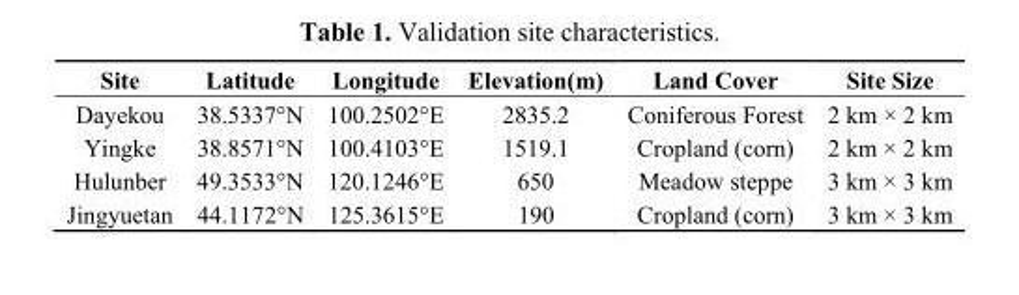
<table><thead><tr><td>Site</td><td>Latitude</td><td>Longitude</td><td>Elevation(m)</td><td>Land Cover</td><td>Site Size</td></tr></thead><tbody><tr><td>Dayekou</td><td>38.5337°N</td><td>100.2502°E</td><td>2835.2</td><td>Coniferous Forest</td><td>2 km × 2 km</td></tr><tr><td>Yingke</td><td>38.8571°N</td><td>100.4103°E</td><td>1519.1</td><td>Cropland (corn)</td><td>2 km × 2 km</td></tr><tr><td>Hulunber</td><td>49.3533°N</td><td>120.1246°E</td><td>650</td><td>Meadow steppe</td><td>3 km × 3 km</td></tr><tr><td>Jingyuetan</td><td>44.1172°N</td><td>125.3615°E</td><td>190</td><td>Cropland (corn)</td><td>3 km × 3 km</td></tr></tbody></table>